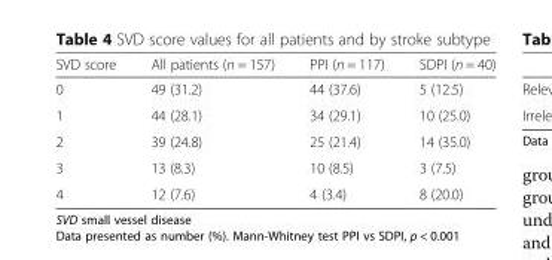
<table><thead><tr><td>SVD score</td><td>All patients (n = 157)</td><td>PPI (n = 117)</td><td>SDPI (n = 40)</td></tr></thead><tbody><tr><td>0</td><td>49 (31.2)</td><td>44 (37.6)</td><td>5 (12.5)</td></tr><tr><td>1</td><td>44 (28.1)</td><td>34 (29.1)</td><td>10 (25.0)</td></tr><tr><td>2</td><td>39 (24.8)</td><td>25 (21.4)</td><td>14 (35.0)</td></tr><tr><td>3</td><td>13 (8.3)</td><td>10 (8.5)</td><td>3 (7.5)</td></tr><tr><td>4</td><td>12 (7.6)</td><td>4 (3.4)</td><td>8 (20.0)</td></tr></tbody></table>